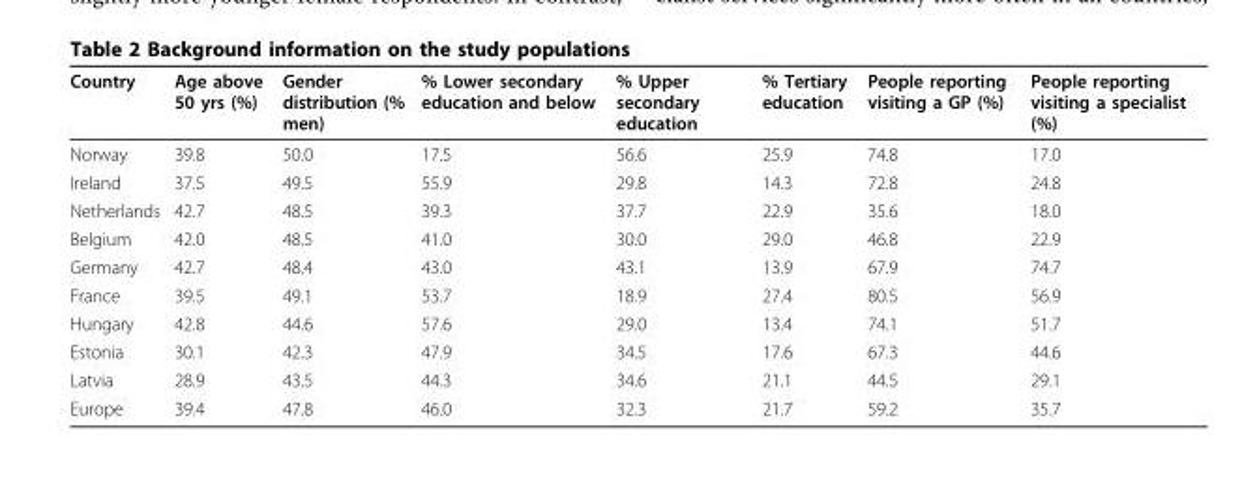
<table><thead><tr><td>Country</td><td>Age above 50 yrs (%)</td><td>Gender distribution (% men)</td><td>% Lower secondary education and below</td><td>% Upper secondary education</td><td>% Tertiary education</td><td>People reporting visiting a GP (%)</td><td>People reporting visiting a specialist (%)</td></tr></thead><tbody><tr><td>Norway</td><td>39.8</td><td>50.0</td><td>17.5</td><td>56.6</td><td>25.9</td><td>74.8</td><td>17.0</td></tr><tr><td>Ireland</td><td>37.5</td><td>49.5</td><td>55.9</td><td>29.8</td><td>14.3</td><td>72.8</td><td>24.8</td></tr><tr><td>Netherlands</td><td>42.7</td><td>48.5</td><td>39.3</td><td>37.7</td><td>22.9</td><td>35.6</td><td>18.0</td></tr><tr><td>Belgium</td><td>42.0</td><td>48.5</td><td>41.0</td><td>30.0</td><td>29.0</td><td>46.8</td><td>22.9</td></tr><tr><td>Germany</td><td>42.7</td><td>48.4</td><td>43.0</td><td>43.1</td><td>13.9</td><td>67.9</td><td>74.7</td></tr><tr><td>France</td><td>39.5</td><td>49.1</td><td>53.7</td><td>18.9</td><td>27.4</td><td>80.5</td><td>56.9</td></tr><tr><td>Hungary</td><td>42.8</td><td>44.6</td><td>57.6</td><td>29.0</td><td>13.4</td><td>74.1</td><td>51.7</td></tr><tr><td>Estonia</td><td>30.1</td><td>42.3</td><td>47.9</td><td>34.5</td><td>17.6</td><td>67.3</td><td>44.6</td></tr><tr><td>Latvia</td><td>28.9</td><td>43.5</td><td>44.3</td><td>34.6</td><td>21.1</td><td>44.5</td><td>29.1</td></tr><tr><td>Europe</td><td>39.4</td><td>47.8</td><td>46.0</td><td>32.3</td><td>21.7</td><td>59.2</td><td>35.7</td></tr></tbody></table>